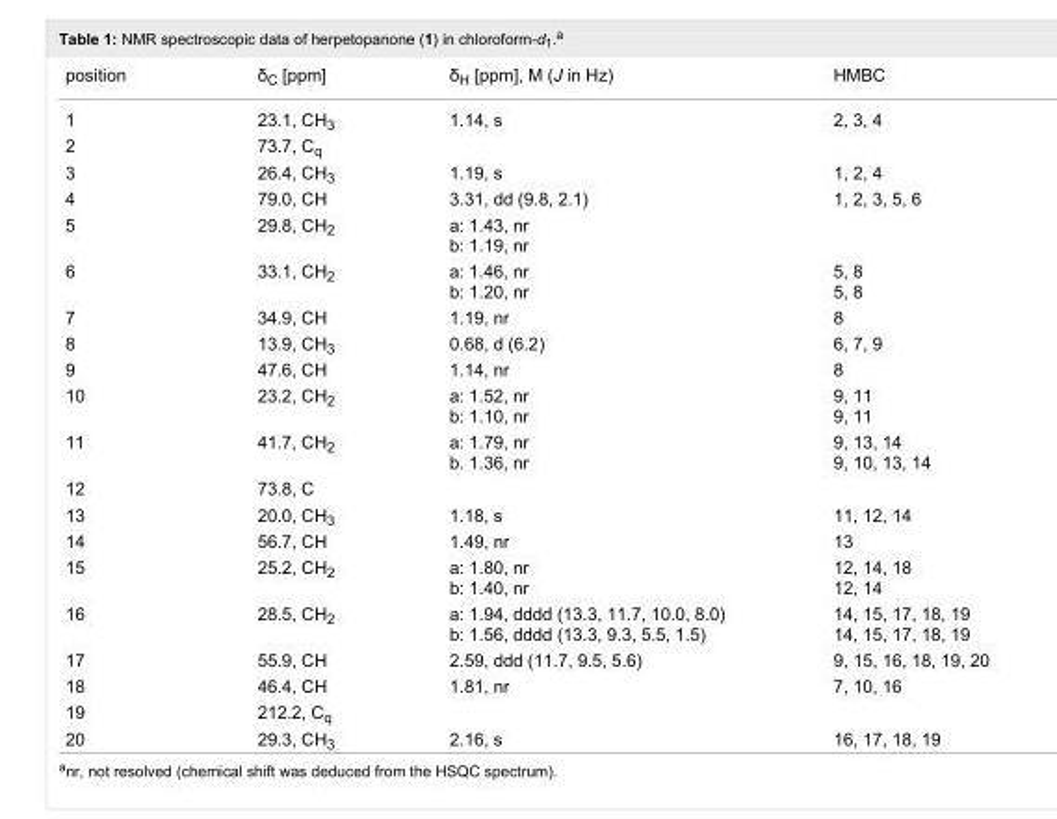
<table><tbody><tr><td>position</td><td>δ<sub>C</sub> [ppm]</td><td>δ<sub>H</sub> [ppm], M (J in Hz)</td><td>HMBC</td></tr><tr><td>1</td><td>23.1, CH<sub>3</sub></td><td>1.14, s</td><td>2, 3, 4</td></tr><tr><td>2</td><td>73.7, C<sub>q</sub></td><td></td><td></td></tr><tr><td>3</td><td>26.4, CH<sub>3</sub></td><td>1.19, s</td><td>1, 2, 4</td></tr><tr><td>4</td><td>79.0, CH</td><td>3.31, dd (9.8, 2.1)</td><td>1, 2, 3, 5, 6</td></tr><tr><td>5</td><td>29.8, CH<sub>2</sub></td><td>a: 1.43, nr b: 1.19, nr</td><td></td></tr><tr><td>6</td><td>33.1, CH<sub>2</sub></td><td>a: 1.46, nr b: 1.20, nr</td><td>5, 8 5, 8</td></tr><tr><td>7</td><td>34.9, CH</td><td>1.19, nr</td><td>8</td></tr><tr><td>8</td><td>13.9, CH<sub>3</sub></td><td>0.68, d (6.2)</td><td>6, 7, 9</td></tr><tr><td>9</td><td>47.6, CH</td><td>1.14, nr</td><td>8</td></tr><tr><td>10</td><td>23.2, CH<sub>2</sub></td><td>a: 1.52, nr b: 1.10, nr</td><td>9, 11 9, 11</td></tr><tr><td>11</td><td>41.7, CH<sub>2</sub></td><td>a: 1.79, nr b. 1.36, nr</td><td>9, 13, 14 9, 10, 13, 14</td></tr><tr><td>12</td><td>73.8, C</td><td></td><td></td></tr><tr><td>13</td><td>20.0, CH<sub>3</sub></td><td>1.18, s</td><td>11, 12, 14</td></tr><tr><td>14</td><td>56.7, CH</td><td>1.49, nr</td><td>13</td></tr><tr><td>15</td><td>25.2, CH<sub>2</sub></td><td>a: 1.80, nr b: 1.40, nr</td><td>12, 14, 18 12, 14</td></tr><tr><td>16</td><td>28.5, CH<sub>2</sub></td><td>a: 1.94, dddd (13.3, 11.7, 10.0, 8.0) b: 1.56, dddd (13.3, 9.3, 5.5, 1.5)</td><td>14, 15, 17, 18, 19 14, 15, 17, 18, 19</td></tr><tr><td>17</td><td>55.9, CH</td><td>2.59, ddd (11.7, 9.5, 5.6)</td><td>9, 15, 16, 18, 19, 20</td></tr><tr><td>18</td><td>46.4, CH</td><td>1.81, nr</td><td>7, 10, 16</td></tr><tr><td>19</td><td>212.2, C<sub>q</sub></td><td></td><td></td></tr><tr><td>20</td><td>29.3, CH<sub>3</sub></td><td>2.16, s</td><td>16, 17, 18, 19</td></tr></tbody></table>